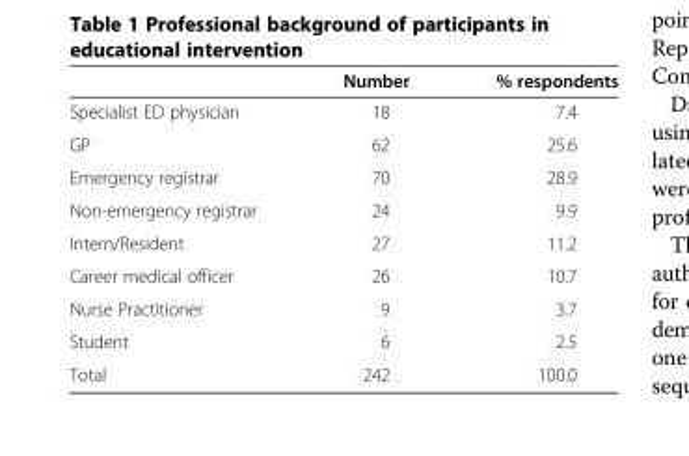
<table><thead><tr><td></td><td>Number</td><td>% respondents</td></tr></thead><tbody><tr><td>Specialist ED physician</td><td>18</td><td>7.4</td></tr><tr><td>GP</td><td>62</td><td>25.6</td></tr><tr><td>Emergency registrar</td><td>70</td><td>28.9</td></tr><tr><td>Non-emergency registrar</td><td>24</td><td>9.9</td></tr><tr><td>Intern/Resident</td><td>27</td><td>11.2</td></tr><tr><td>Career medical officer</td><td>26</td><td>10.7</td></tr><tr><td>Nurse Practitioner</td><td>9</td><td>3.7</td></tr><tr><td>Student</td><td>6</td><td>2.5</td></tr><tr><td>Total</td><td>242</td><td>100.0</td></tr></tbody></table>